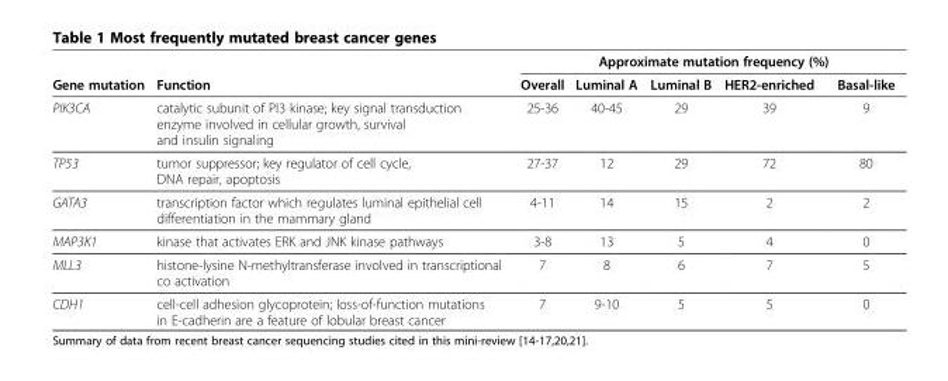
<table><thead><tr><td rowspan="2">Gene mutation</td><td rowspan="2">Function</td><td colspan="5">Approximate mutation frequency (%)</td></tr><tr><td>Overall</td><td>Luminal A</td><td>Luminal B</td><td>HER2-enriched</td><td>Basal-like</td></tr></thead><tbody><tr><td>PIK3CA</td><td>catalytic subunit of PI3 kinase; key signal transduction enzyme involved in cellular growth, survival and insulin signaling</td><td>25-36</td><td>40-45</td><td>29</td><td>39</td><td>9</td></tr><tr><td>TP53</td><td>tumor suppressor; key regulator of cell cycle, DNA repair, apoptosis</td><td>27-37</td><td>12</td><td>29</td><td>72</td><td>80</td></tr><tr><td>GATA3</td><td>transcription factor which regulates luminal epithelial cell differentiation in the mammary gland</td><td>4-11</td><td>14</td><td>15</td><td>2</td><td>2</td></tr><tr><td>MAP3K1</td><td>kinase that activates ERK and JNK kinase pathways</td><td>3-8</td><td>13</td><td>5</td><td>4</td><td>0</td></tr><tr><td>MLL3</td><td>histone-lysine N-methyltransferase involved in transcriptional co activation</td><td>7</td><td>8</td><td>6</td><td>7</td><td>5</td></tr><tr><td>CDH1</td><td>cell-cell adhesion glycoprotein; loss-of-function mutations in E-cadherin are a feature of lobular breast cancer</td><td>7</td><td>9-10</td><td>5</td><td>5</td><td>0</td></tr></tbody></table>